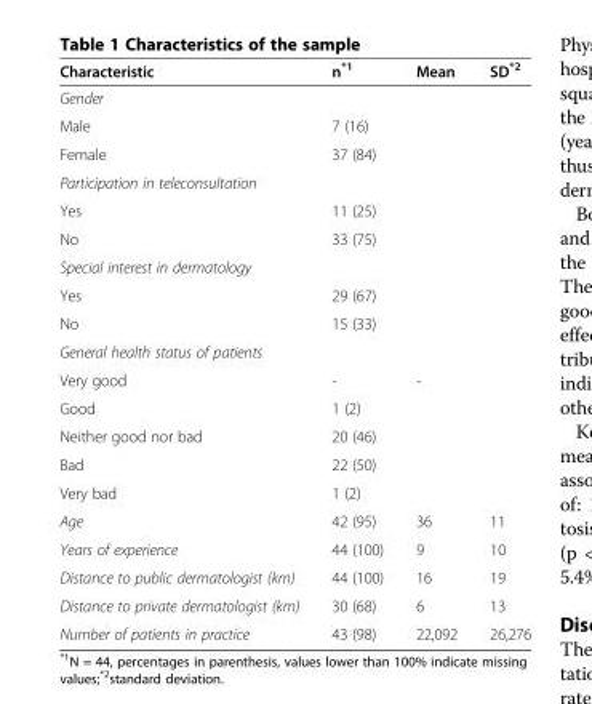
<table><thead><tr><td>Characteristic</td><td>n<sup>*1</sup></td><td>Mean</td><td>SD<sup>*2</sup></td></tr></thead><tbody><tr><td colspan="4">Gender</td></tr><tr><td>Male</td><td>7 (16)</td><td></td><td></td></tr><tr><td>Female</td><td>37 (84)</td><td></td><td></td></tr><tr><td colspan="4">Participation in teleconsultation</td></tr><tr><td>Yes</td><td>11 (25)</td><td></td><td></td></tr><tr><td>No</td><td>33 (75)</td><td></td><td></td></tr><tr><td colspan="4">Special interest in dermatology</td></tr><tr><td>Yes</td><td>29 (67)</td><td></td><td></td></tr><tr><td>No</td><td>15 (33)</td><td></td><td></td></tr><tr><td colspan="4">General health status of patients</td></tr><tr><td>Very good</td><td>-</td><td>-</td><td></td></tr><tr><td>Good</td><td>1 (2)</td><td></td><td></td></tr><tr><td>Neither good nor bad</td><td>20 (46)</td><td></td><td></td></tr><tr><td>Bad</td><td>22 (50)</td><td></td><td></td></tr><tr><td>Very bad</td><td>1 (2)</td><td></td><td></td></tr><tr><td>Age</td><td>42 (95)</td><td>36</td><td>11</td></tr><tr><td>Years of experience</td><td>44 (100)</td><td>9</td><td>10</td></tr><tr><td>Distance to public dermatologist (km)</td><td>44 (100)</td><td>16</td><td>19</td></tr><tr><td>Distance to private dermatologist (km)</td><td>30 (68)</td><td>6</td><td>13</td></tr><tr><td>Number of patients in practice</td><td>43 (98)</td><td>22,092</td><td>26,276</td></tr></tbody></table>